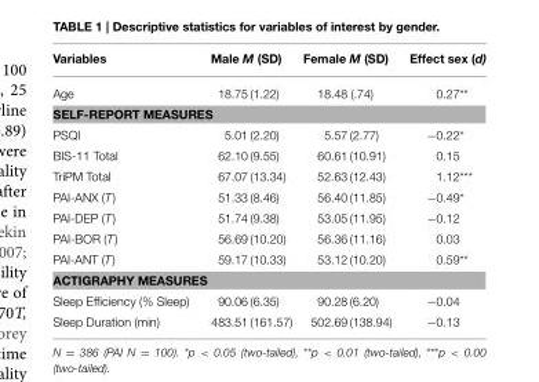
<table><thead><tr><td>Variables</td><td>Male M (SD)</td><td>Female M (SD)</td><td>Effect sex (d)</td></tr></thead><tbody><tr><td>Age</td><td>18.75 (1.22)</td><td>18.48 (.74)</td><td>0.27**</td></tr><tr><td colspan="4">SELF-REPORT MEASURES</td></tr><tr><td>PSQI</td><td>5.01 (2.20)</td><td>5.57 (2.77)</td><td>−0.22*</td></tr><tr><td>BIS-11 Total</td><td>62.10 (9.55)</td><td>60.61 (10.91)</td><td>0.15</td></tr><tr><td>TriPM Total</td><td>67.07 (13.34)</td><td>52.63 (12.43)</td><td>1.12***</td></tr><tr><td>PAI-ANX (T)</td><td>51.33 (8.46)</td><td>56.40 (11.85)</td><td>−0.49*</td></tr><tr><td>PAI-DEP (T)</td><td>51.74 (9.38)</td><td>53.05 (11.95)</td><td>−0.12</td></tr><tr><td>PAI-BOR (T)</td><td>56.69 (10.20)</td><td>56.36 (11.16)</td><td>0.03</td></tr><tr><td>PAI-ANT (T)</td><td>59.17 (10.33)</td><td>53.12 (10.20)</td><td>0.59**</td></tr><tr><td colspan="4">ACTIGRAPHY MEASURES</td></tr><tr><td>Sleep Efficiency (% Sleep)</td><td>90.06 (6.35)</td><td>90.28 (6.20)</td><td>−0.04</td></tr><tr><td>Sleep Duration (min)</td><td>483.51 (161.57)</td><td>502.69 (138.94)</td><td>−0.13</td></tr></tbody></table>